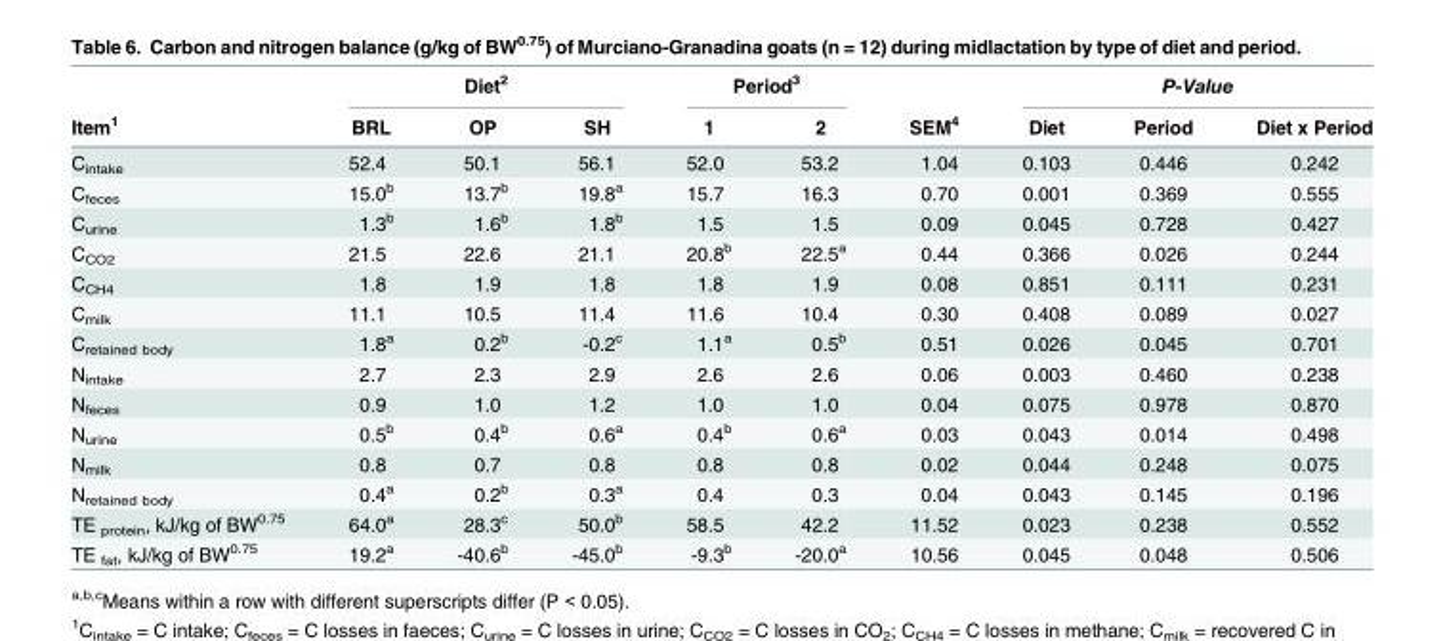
<table><thead><tr><td rowspan="2">Item<sup>1</sup></td><td colspan="3">Diet<sup>2</sup></td><td colspan="2">Period<sup>3</sup></td><td rowspan="2">SEM<sup>4</sup></td><td colspan="3">P-Value</td></tr><tr><td>BRL</td><td>OP</td><td>SH</td><td>1</td><td>2</td><td>Diet</td><td>Period</td><td>Diet x Period</td></tr></thead><tbody><tr><td>C<sub>intake</sub></td><td>52.4</td><td>50.1</td><td>56.1</td><td>52.0</td><td>53.2</td><td>1.04</td><td>0.103</td><td>0.446</td><td>0.242</td></tr><tr><td>C<sub>feces</sub></td><td>15.0<sup>b</sup></td><td>13.7<sup>b</sup></td><td>19.8<sup>a</sup></td><td>15.7</td><td>16.3</td><td>0.70</td><td>0.001</td><td>0.369</td><td>0.555</td></tr><tr><td>C<sub>urine</sub></td><td>1.3<sup>b</sup></td><td>1.6<sup>b</sup></td><td>1.8<sup>b</sup></td><td>1.5</td><td>1.5</td><td>0.09</td><td>0.045</td><td>0.728</td><td>0.427</td></tr><tr><td>C<sub>CO2</sub></td><td>21.5</td><td>22.6</td><td>21.1</td><td>20.8<sup>b</sup></td><td>22.5<sup>a</sup></td><td>0.44</td><td>0.366</td><td>0.026</td><td>0.244</td></tr><tr><td>C<sub>CH4</sub></td><td>1.8</td><td>1.9</td><td>1.8</td><td>1.8</td><td>1.9</td><td>0.08</td><td>0.851</td><td>0.111</td><td>0.231</td></tr><tr><td>C<sub>milk</sub></td><td>11.1</td><td>10.5</td><td>11.4</td><td>11.6</td><td>10.4</td><td>0.30</td><td>0.408</td><td>0.089</td><td>0.027</td></tr><tr><td>C<sub>retained body</sub></td><td>1.8<sup>a</sup></td><td>0.2<sup>b</sup></td><td>-0.2<sup>c</sup></td><td>1.1<sup>a</sup></td><td>0.5<sup>b</sup></td><td>0.51</td><td>0.026</td><td>0.045</td><td>0.701</td></tr><tr><td>N<sub>intake</sub></td><td>2.7</td><td>2.3</td><td>2.9</td><td>2.6</td><td>2.6</td><td>0.06</td><td>0.003</td><td>0.460</td><td>0.238</td></tr><tr><td>N<sub>feces</sub></td><td>0.9</td><td>1.0</td><td>1.2</td><td>1.0</td><td>1.0</td><td>0.04</td><td>0.075</td><td>0.978</td><td>0.870</td></tr><tr><td>N<sub>urine</sub></td><td>0.5<sup>b</sup></td><td>0.4<sup>b</sup></td><td>0.6<sup>a</sup></td><td>0.4<sup>b</sup></td><td>0.6<sup>a</sup></td><td>0.03</td><td>0.043</td><td>0.014</td><td>0.498</td></tr><tr><td>N<sub>milk</sub></td><td>0.8</td><td>0.7</td><td>0.8</td><td>0.8</td><td>0.8</td><td>0.02</td><td>0.044</td><td>0.248</td><td>0.075</td></tr><tr><td>N<sub>retained body</sub></td><td>0.4<sup>a</sup></td><td>0.2<sup>b</sup></td><td>0.3<sup>a</sup></td><td>0.4</td><td>0.3</td><td>0.04</td><td>0.043</td><td>0.145</td><td>0.196</td></tr><tr><td>TE <sub>protein</sub>, kJ/kg of BW<sup>0.75</sup></td><td>64.0<sup>a</sup></td><td>28.3<sup>c</sup></td><td>50.0<sup>b</sup></td><td>58.5</td><td>42.2</td><td>11.52</td><td>0.023</td><td>0.238</td><td>0.552</td></tr><tr><td>TE <sub>fat</sub>, kJ/kg of BW<sup>0.75</sup></td><td>19.2<sup>a</sup></td><td>-40.6<sup>b</sup></td><td>-45.0<sup>b</sup></td><td>-9.3<sup>b</sup></td><td>-20.0<sup>a</sup></td><td>10.56</td><td>0.045</td><td>0.048</td><td>0.506</td></tr></tbody></table>